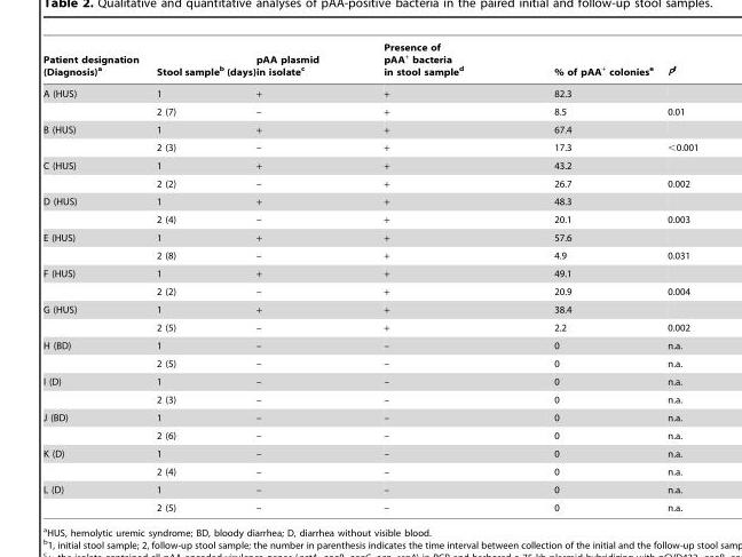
<table><thead><tr><td>Patient designation (Diagnosis)<sup>a</sup></td><td>Stool sample<sup>b</sup> (days)</td><td>pAA plasmid in isolate<sup>c</sup></td><td>Presence of pAA<sup>+</sup> bacteria in stool sample<sup>d</sup></td><td>% of pAA<sup>+</sup> colonies<sup>e</sup></td><td>Pf</td></tr></thead><tbody><tr><td rowspan="2">A (HUS)</td><td>1</td><td>+</td><td>+</td><td>82.3</td><td></td></tr><tr><td>2 (7)</td><td>–</td><td>+</td><td>8.5</td><td>0.01</td></tr><tr><td rowspan="2">B (HUS)</td><td>1</td><td>+</td><td>+</td><td>67.4</td><td></td></tr><tr><td>2 (3)</td><td>–</td><td>+</td><td>17.3</td><td>&lt;0.001</td></tr><tr><td rowspan="2">C (HUS)</td><td>1</td><td>+</td><td>+</td><td>43.2</td><td></td></tr><tr><td>2 (2)</td><td>–</td><td>+</td><td>26.7</td><td>0.002</td></tr><tr><td rowspan="2">D (HUS)</td><td>1</td><td>+</td><td>+</td><td>48.3</td><td></td></tr><tr><td>2 (4)</td><td>–</td><td>+</td><td>20.1</td><td>0.003</td></tr><tr><td rowspan="2">E (HUS)</td><td>1</td><td>+</td><td>+</td><td>57.6</td><td></td></tr><tr><td>2 (8)</td><td>–</td><td>+</td><td>4.9</td><td>0.031</td></tr><tr><td rowspan="2">F (HUS)</td><td>1</td><td>+</td><td>+</td><td>49.1</td><td></td></tr><tr><td>2 (2)</td><td>–</td><td>+</td><td>20.9</td><td>0.004</td></tr><tr><td rowspan="2">G (HUS)</td><td>1</td><td>+</td><td>+</td><td>38.4</td><td></td></tr><tr><td>2 (5)</td><td>–</td><td>+</td><td>2.2</td><td>0.002</td></tr><tr><td rowspan="2">H (BD)</td><td>1</td><td>–</td><td>–</td><td>0</td><td>n.a.</td></tr><tr><td>2 (5)</td><td>–</td><td>–</td><td>0</td><td>n.a.</td></tr><tr><td rowspan="2">I (D)</td><td>1</td><td>–</td><td>–</td><td>0</td><td>n.a.</td></tr><tr><td>2 (3)</td><td>–</td><td>–</td><td>0</td><td>n.a.</td></tr><tr><td rowspan="2">J (BD)</td><td>1</td><td>–</td><td>–</td><td>0</td><td>n.a.</td></tr><tr><td>2 (6)</td><td>–</td><td>–</td><td>0</td><td>n.a.</td></tr><tr><td rowspan="2">K (D)</td><td>1</td><td>–</td><td>–</td><td>0</td><td>n.a.</td></tr><tr><td>2 (4)</td><td>–</td><td>–</td><td>0</td><td>n.a.</td></tr><tr><td rowspan="2">L (D)</td><td>1</td><td>–</td><td>–</td><td>0</td><td>n.a.</td></tr><tr><td>2 (5)</td><td>–</td><td>–</td><td>0</td><td>n.a.</td></tr></tbody></table>